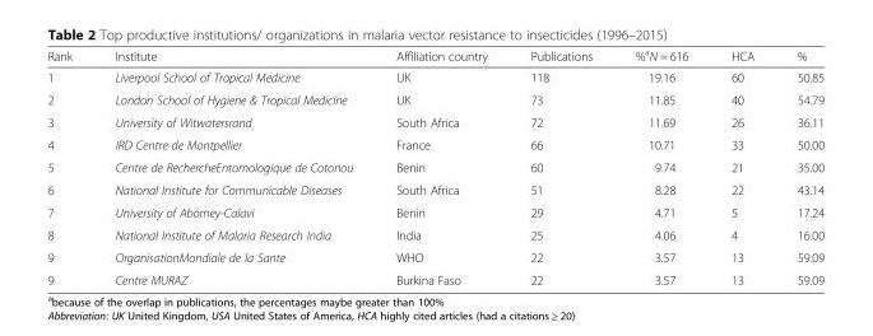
<table><thead><tr><td>Rank</td><td>Institute</td><td>Affiliation country</td><td>Publications</td><td>%<sup>a</sup>N = 616</td><td>HCA</td><td>%</td></tr></thead><tbody><tr><td>1</td><td>Liverpool School of Tropical Medicine</td><td>UK</td><td>118</td><td>19.16</td><td>60</td><td>50.85</td></tr><tr><td>2</td><td>London School of Hygiene &amp; Tropical Medicine</td><td>UK</td><td>73</td><td>11.85</td><td>40</td><td>54.79</td></tr><tr><td>3</td><td>University of Witwatersrand</td><td>South Africa</td><td>72</td><td>11.69</td><td>26</td><td>36.11</td></tr><tr><td>4</td><td>IRD Centre de Montpellier</td><td>France</td><td>66</td><td>10.71</td><td>33</td><td>50.00</td></tr><tr><td>5</td><td>Centre de RechercheEntomologique de Cotonou</td><td>Benin</td><td>60</td><td>9.74</td><td>21</td><td>35.00</td></tr><tr><td>6</td><td>National Institute for Communicable Diseases</td><td>South Africa</td><td>51</td><td>8.28</td><td>22</td><td>43.14</td></tr><tr><td>7</td><td>University of Abomey-Calavi</td><td>Benin</td><td>29</td><td>4.71</td><td>5</td><td>17.24</td></tr><tr><td>8</td><td>National Institute of Malaria Research India</td><td>India</td><td>25</td><td>4.06</td><td>4</td><td>16.00</td></tr><tr><td>9</td><td>OrganisationMondiale de la Sante</td><td>WHO</td><td>22</td><td>3.57</td><td>13</td><td>59.09</td></tr><tr><td>9</td><td>Centre MURAZ</td><td>Burkina Faso</td><td>22</td><td>3.57</td><td>13</td><td>59.09</td></tr></tbody></table>